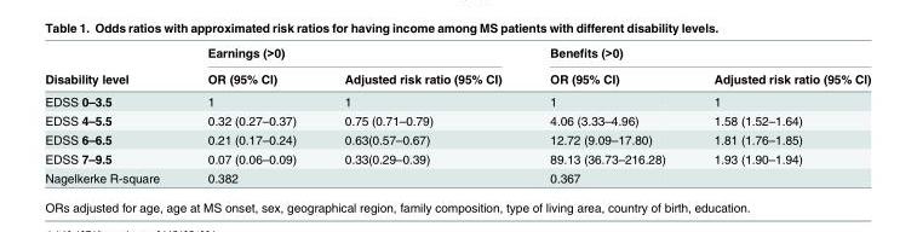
<table><thead><tr><td rowspan="2">Disability level</td><td colspan="2">Earnings (&gt;0)</td><td colspan="2">Benefits (&gt;0)</td></tr><tr><td>OR (95% CI)</td><td>Adjusted risk ratio (95% CI)</td><td>OR (95% CI)</td><td>Adjusted risk ratio (95% CI)</td></tr></thead><tbody><tr><td>EDSS 0–3.5</td><td>1</td><td>1</td><td>1</td><td>1</td></tr><tr><td>EDSS 4–5.5</td><td>0.32 (0.27–0.37)</td><td>0.75 (0.71–0.79)</td><td>4.06 (3.33–4.96)</td><td>1.58 (1.52–1.64)</td></tr><tr><td>EDSS 6–6.5</td><td>0.21 (0.17–0.24)</td><td>0.63(0.57–0.67)</td><td>12.72 (9.09–17.80)</td><td>1.81 (1.76–1.85)</td></tr><tr><td>EDSS 7–9.5</td><td>0.07 (0.06–0.09)</td><td>0.33(0.29–0.39)</td><td>89.13 (36.73–216.28)</td><td>1.93 (1.90–1.94)</td></tr><tr><td>Nagelkerke R-square</td><td>0.382</td><td></td><td>0.367</td><td></td></tr></tbody></table>